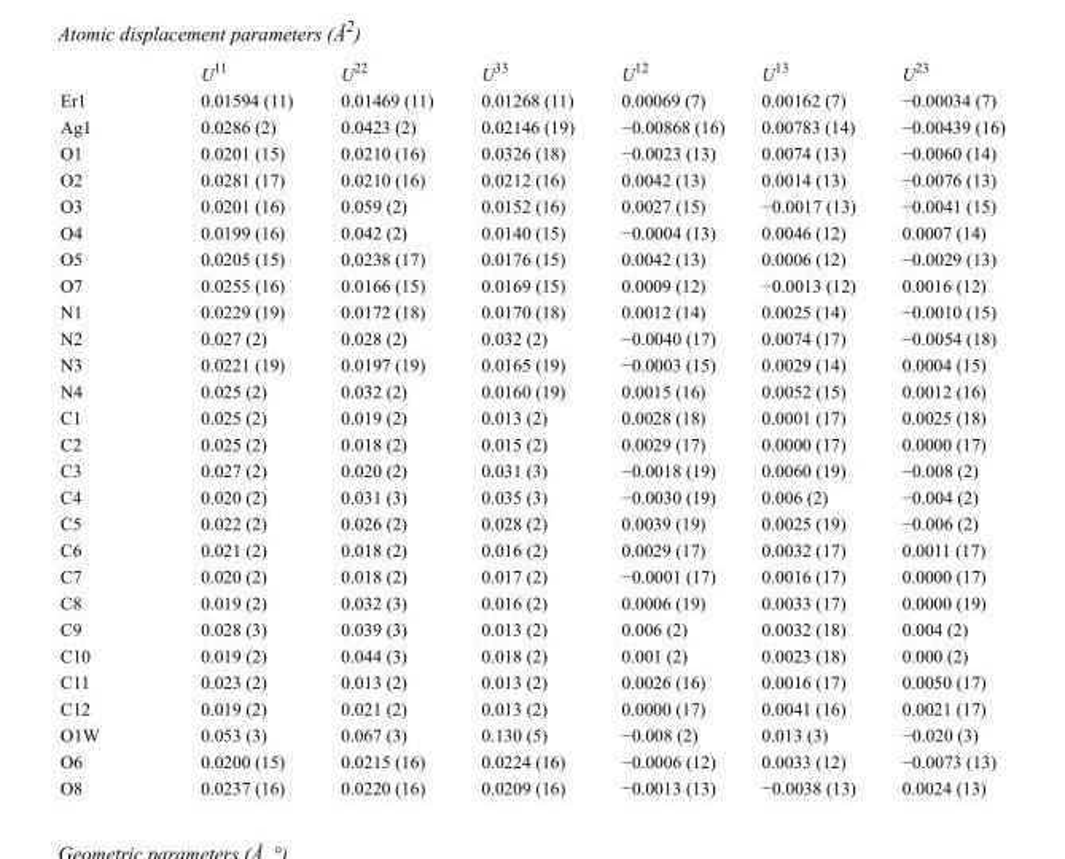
<table><thead><tr><td></td><td>U<sup>11</sup></td><td>U<sup>22</sup></td><td>U<sup>33</sup></td><td>U<sup>12</sup></td><td>U<sup>13</sup></td><td>U<sup>23</sup></td></tr></thead><tbody><tr><td>Er1</td><td>0.01594 (11)</td><td>0.01469 (11)</td><td>0.01268 (11)</td><td>0.00069 (7)</td><td>0.00162 (7)</td><td>−0.00034 (7)</td></tr><tr><td>Ag1</td><td>0.0286 (2)</td><td>0.0423 (2)</td><td>0.02146 (19)</td><td>−0.00868 (16)</td><td>0.00783 (14)</td><td>−0.00439 (16)</td></tr><tr><td>O1</td><td>0.0201 (15)</td><td>0.0210 (16)</td><td>0.0326 (18)</td><td>−0.0023 (13)</td><td>0.0074 (13)</td><td>−0.0060 (14)</td></tr><tr><td>O2</td><td>0.0281 (17)</td><td>0.0210 (16)</td><td>0.0212 (16)</td><td>0.0042 (13)</td><td>0.0014 (13)</td><td>−0.0076 (13)</td></tr><tr><td>O3</td><td>0.0201 (16)</td><td>0.059 (2)</td><td>0.0152 (16)</td><td>0.0027 (15)</td><td>−0.0017 (13)</td><td>−0.0041 (15)</td></tr><tr><td>O4</td><td>0.0199 (16)</td><td>0.042 (2)</td><td>0.0140 (15)</td><td>−0.0004 (13)</td><td>0.0046 (12)</td><td>0.0007 (14)</td></tr><tr><td>O5</td><td>0.0205 (15)</td><td>0.0238 (17)</td><td>0.0176 (15)</td><td>0.0042 (13)</td><td>0.0006 (12)</td><td>−0.0029 (13)</td></tr><tr><td>O7</td><td>0.0255 (16)</td><td>0.0166 (15)</td><td>0.0169 (15)</td><td>0.0009 (12)</td><td>−0.0013 (12)</td><td>0.0016 (12)</td></tr><tr><td>N1</td><td>0.0229 (19)</td><td>0.0172 (18)</td><td>0.0170 (18)</td><td>0.0012 (14)</td><td>0.0025 (14)</td><td>−0.0010 (15)</td></tr><tr><td>N2</td><td>0.027 (2)</td><td>0.028 (2)</td><td>0.032 (2)</td><td>−0.0040 (17)</td><td>0.0074 (17)</td><td>−0.0054 (18)</td></tr><tr><td>N3</td><td>0.0221 (19)</td><td>0.0197 (19)</td><td>0.0165 (19)</td><td>−0.0003 (15)</td><td>0.0029 (14)</td><td>0.0004 (15)</td></tr><tr><td>N4</td><td>0.025 (2)</td><td>0.032 (2)</td><td>0.0160 (19)</td><td>0.0015 (16)</td><td>0.0052 (15)</td><td>0.0012 (16)</td></tr><tr><td>C1</td><td>0.025 (2)</td><td>0.019 (2)</td><td>0.013 (2)</td><td>0.0028 (18)</td><td>0.0001 (17)</td><td>0.0025 (18)</td></tr><tr><td>C2</td><td>0.025 (2)</td><td>0.018 (2)</td><td>0.015 (2)</td><td>0.0029 (17)</td><td>0.0000 (17)</td><td>0.0000 (17)</td></tr><tr><td>C3</td><td>0.027 (2)</td><td>0.020 (2)</td><td>0.031 (3)</td><td>−0.0018 (19)</td><td>0.0060 (19)</td><td>−0.008 (2)</td></tr><tr><td>C4</td><td>0.020 (2)</td><td>0.031 (3)</td><td>0.035 (3)</td><td>−0.0030 (19)</td><td>0.006 (2)</td><td>−0.004 (2)</td></tr><tr><td>C5</td><td>0.022 (2)</td><td>0.026 (2)</td><td>0.028 (2)</td><td>0.0039 (19)</td><td>0.0025 (19)</td><td>−0.006 (2)</td></tr><tr><td>C6</td><td>0.021 (2)</td><td>0.018 (2)</td><td>0.016 (2)</td><td>0.0029 (17)</td><td>0.0032 (17)</td><td>0.0011 (17)</td></tr><tr><td>C7</td><td>0.020 (2)</td><td>0.018 (2)</td><td>0.017 (2)</td><td>−0.0001 (17)</td><td>0.0016 (17)</td><td>0.0000 (17)</td></tr><tr><td>C8</td><td>0.019 (2)</td><td>0.032 (3)</td><td>0.016 (2)</td><td>0.0006 (19)</td><td>0.0033 (17)</td><td>0.0000 (19)</td></tr><tr><td>C9</td><td>0.028 (3)</td><td>0.039 (3)</td><td>0.013 (2)</td><td>0.006 (2)</td><td>0.0032 (18)</td><td>0.004 (2)</td></tr><tr><td>C10</td><td>0.019 (2)</td><td>0.044 (3)</td><td>0.018 (2)</td><td>0.001 (2)</td><td>0.0023 (18)</td><td>0.000 (2)</td></tr><tr><td>C11</td><td>0.023 (2)</td><td>0.013 (2)</td><td>0.013 (2)</td><td>0.0026 (16)</td><td>0.0016 (17)</td><td>0.0050 (17)</td></tr><tr><td>C12</td><td>0.019 (2)</td><td>0.021 (2)</td><td>0.013 (2)</td><td>0.0000 (17)</td><td>0.0041 (16)</td><td>0.0021 (17)</td></tr><tr><td>O1W</td><td>0.053 (3)</td><td>0.067 (3)</td><td>0.130 (5)</td><td>−0.008 (2)</td><td>0.013 (3)</td><td>−0.020 (3)</td></tr><tr><td>O6</td><td>0.0200 (15)</td><td>0.0215 (16)</td><td>0.0224 (16)</td><td>−0.0006 (12)</td><td>0.0033 (12)</td><td>−0.0073 (13)</td></tr><tr><td>O8</td><td>0.0237 (16)</td><td>0.0220 (16)</td><td>0.0209 (16)</td><td>−0.0013 (13)</td><td>−0.0038 (13)</td><td>0.0024 (13)</td></tr></tbody></table>